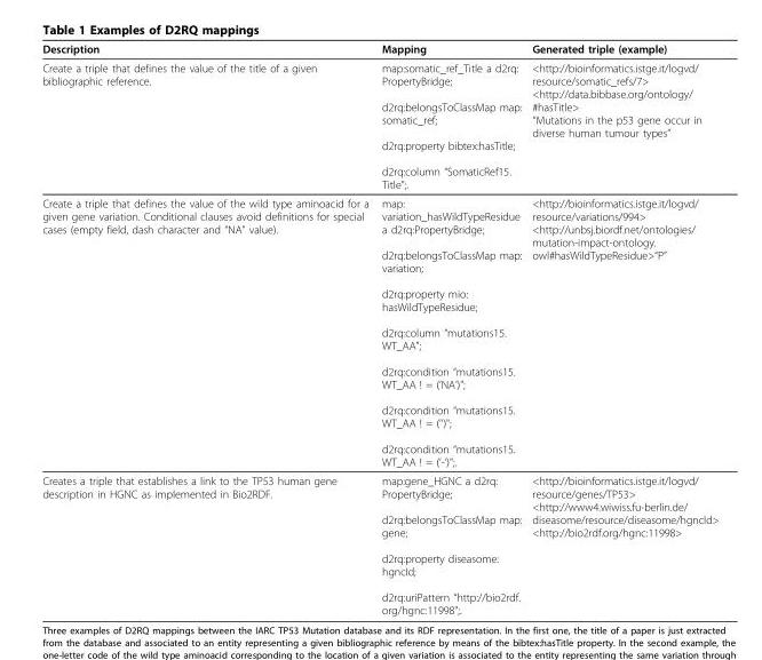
<table><thead><tr><td>Description</td><td>Mapping</td><td>Generated triple (example)</td></tr></thead><tbody><tr><td>Create a triple that defines the value of the title of a given bibliographic reference.</td><td>map:somatic_ref_Title a d2rq: PropertyBridge; d2rq:belongsToClassMap map: somatic_ref; d2rq:property bibtex:hasTitle; d2rq:column “SomaticRef15. Title&quot;;.</td><td>&lt;http://bioinformatics.istge.it/logvd/ resource/somatic_refs/7&gt; &lt;http://data.bibbase.org/ontology/ #hasTitle&gt; “Mutations in the p53 gene occur in diverse human tumour types”</td></tr><tr><td>Create a triple that defines the value of the wild type aminoacid for a given gene variation. Conditional clauses avoid definitions for special cases (empty field, dash character and “NA” value).</td><td>map: variation_hasWildTypeResidue a d2rq:PropertyBridge; d2rq:belongsToClassMap map: variation; d2rq:property mio: hasWildTypeResidue; d2rq:column “mutations15. WT_AA&quot;; d2rq:condition “mutations15. WT_AA ! = (’NA’)&quot;; d2rq:condition “mutations15. WT_AA ! = (’’)&quot;; d2rq:condition “mutations15. WT_AA ! = (’-’)&quot;;.</td><td>&lt;http://bioinformatics.istge.it/logvd/ resource/variations/994&gt; &lt;http://unbsj.biordf.net/ontologies/ mutation-impact-ontology. owl#hasWildTypeResidue&gt;“P”</td></tr><tr><td>Creates a triple that establishes a link to the TP53 human gene description in HGNC as implemented in Bio2RDF.</td><td>map:gene_HGNC a d2rq: PropertyBridge; d2rq:belongsToClassMap map: gene; d2rq:property diseasome: hgncId; d2rq:uriPattern “http://bio2rdf. org/hgnc:11998&quot;;.</td><td>&lt;http://bioinformatics.istge.it/logvd/ resource/genes/TP53&gt; &lt;http://www4.wiwiss.fu-berlin.de/ diseasome/resource/diseasome/hgncId&gt; &lt;http://bio2rdf.org/hgnc:11998&gt;</td></tr></tbody></table>